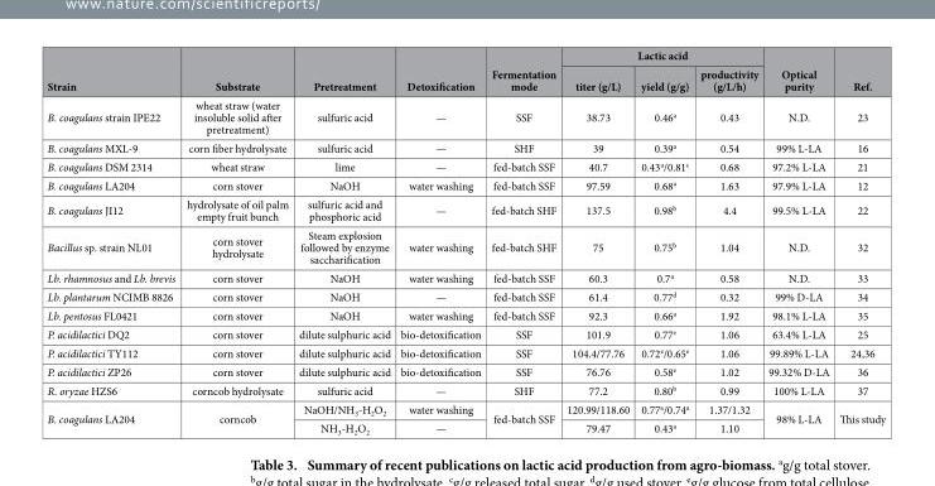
<table><thead><tr><td rowspan="2">Strain</td><td rowspan="2">Substrate</td><td rowspan="2">Pretreatment</td><td rowspan="2">Detoxification</td><td rowspan="2">Fermentation mode</td><td colspan="3">Lactic acid</td><td rowspan="2">Optical purity</td><td rowspan="2">Ref.</td></tr><tr><td>titer (g/L)</td><td>yield (g/g)</td><td>productivity (g/L/h)</td></tr></thead><tbody><tr><td>B. coagulans strain IPE22</td><td>wheat straw (water insoluble solid after pretreatment)</td><td>sulfuric acid</td><td>—</td><td>SSF</td><td>38.73</td><td>0.46<sup>a</sup></td><td>0.43</td><td>N.D.</td><td>23</td></tr><tr><td>B. coagulans MXL-9</td><td>corn fiber hydrolysate</td><td>sulfuric acid</td><td>—</td><td>SHF</td><td>39</td><td>0.39<sup>a</sup></td><td>0.54</td><td>99% L-LA</td><td>16</td></tr><tr><td>B. coagulans DSM 2314</td><td>wheat straw</td><td>lime</td><td>—</td><td>fed-batch SSF</td><td>40.7</td><td>0.43<sup>a</sup>/0.81<sup>c</sup></td><td>0.68</td><td>97.2% L-LA</td><td>21</td></tr><tr><td>B. coagulans LA204</td><td>corn stover</td><td>NaOH</td><td>water washing</td><td>fed-batch SSF</td><td>97.59</td><td>0.68<sup>a</sup></td><td>1.63</td><td>97.9% L-LA</td><td>12</td></tr><tr><td>B. coagulans JI12</td><td>hydrolysate of oil palm empty fruit bunch</td><td>sulfuric acid and phosphoric acid</td><td>—</td><td>fed-batch SHF</td><td>137.5</td><td>0.98<sup>b</sup></td><td>4.4</td><td>99.5% L-LA</td><td>22</td></tr><tr><td>Bacillus sp. strain NL01</td><td>corn stover hydrolysate</td><td>Steam explosion followed by enzyme saccharification</td><td>water washing</td><td>fed-batch SHF</td><td>75</td><td>0.75<sup>b</sup></td><td>1.04</td><td>N.D.</td><td>32</td></tr><tr><td>Lb. rhamnosus and Lb. brevis</td><td>corn stover</td><td>NaOH</td><td>water washing</td><td>fed-batch SSF</td><td>60.3</td><td>0.7<sup>a</sup></td><td>0.58</td><td>N.D.</td><td>33</td></tr><tr><td>Lb. plantarum NCIMB 8826</td><td>corn stover</td><td>NaOH</td><td>—</td><td>fed-batch SSF</td><td>61.4</td><td>0.77<sup>d</sup></td><td>0.32</td><td>99% D-LA</td><td>34</td></tr><tr><td>Lb. pentosus FL0421</td><td>corn stover</td><td>NaOH</td><td>water washing</td><td>fed-batch SSF</td><td>92.3</td><td>0.66<sup>a</sup></td><td>1.92</td><td>98.1% L-LA</td><td>35</td></tr><tr><td>P. acidilactici DQ2</td><td>corn stover</td><td>dilute sulphuric acid</td><td>bio-detoxification</td><td>SSF</td><td>101.9</td><td>0.77<sup>e</sup></td><td>1.06</td><td>63.4% L-LA</td><td>25</td></tr><tr><td>P. acidilactici TY112</td><td>corn stover</td><td>dilute sulphuric acid</td><td>bio-detoxification</td><td>SSF</td><td>104.4/77.76</td><td>0.72<sup>e</sup>/0.65<sup>e</sup></td><td>1.06</td><td>99.89% L-LA</td><td>24,36</td></tr><tr><td>P. acidilactici ZP26</td><td>corn stover</td><td>dilute sulphuric acid</td><td>bio-detoxification</td><td>SSF</td><td>76.76</td><td>0.58<sup>e</sup></td><td>1.02</td><td>99.32% D-LA</td><td>36</td></tr><tr><td>R. oryzae HZS6</td><td>corncob hydrolysate</td><td>sulfuric acid</td><td>—</td><td>SHF</td><td>77.2</td><td>0.80<sup>b</sup></td><td>0.99</td><td>100% L-LA</td><td>37</td></tr><tr><td rowspan="2">B. coagulans LA204</td><td rowspan="2">corncob</td><td>NaOH/NH<sub>3</sub>-H<sub>2</sub>O<sub>2</sub></td><td>water washing</td><td rowspan="2">fed-batch SSF</td><td>120.99/118.60</td><td>0.77<sup>a</sup>/0.74<sup>a</sup></td><td>1.37/1.32</td><td rowspan="2">98% L-LA</td><td rowspan="2">This study</td></tr><tr><td>NH<sub>3</sub>-H<sub>2</sub>O<sub>2</sub></td><td>—</td><td>79.47</td><td>0.43<sup>a</sup></td><td>1.10</td></tr></tbody></table>